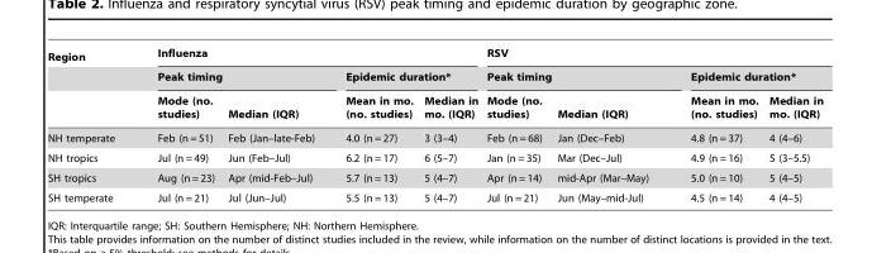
<table><thead><tr><td rowspan="3">Region</td><td colspan="4">Influenza</td><td colspan="4">RSV</td></tr><tr><td colspan="2">Peak timing</td><td colspan="2">Epidemic duration*</td><td colspan="2">Peak timing</td><td colspan="2">Epidemic duration*</td></tr><tr><td>Mode (no. studies)</td><td>Median (IQR)</td><td>Mean in mo. (no. studies)</td><td>Median in mo. (IQR)</td><td>Mode (no. studies)</td><td>Median (IQR)</td><td>Mean in mo. (no. studies)</td><td>Median in mo. (IQR)</td></tr></thead><tbody><tr><td>NH temperate</td><td>Feb (n = 51)</td><td>Feb (Jan–late-Feb)</td><td>4.0 (n = 27)</td><td>3 (3–4)</td><td>Feb (n = 68)</td><td>Jan (Dec–Feb)</td><td>4.8 (n = 37)</td><td>4 (4–6)</td></tr><tr><td>NH tropics</td><td>Jul (n = 49)</td><td>Jun (Feb–Jul)</td><td>6.2 (n = 17)</td><td>6 (5–7)</td><td>Jan (n = 35)</td><td>Mar (Dec–Jul)</td><td>4.9 (n = 16)</td><td>5 (3–5.5)</td></tr><tr><td>SH tropics</td><td>Aug (n = 23)</td><td>Apr (mid-Feb–Jul)</td><td>5.7 (n = 13)</td><td>5 (4–7)</td><td>Apr (n = 14)</td><td>mid-Apr (Mar–May)</td><td>5.0 (n = 10)</td><td>5 (4–5)</td></tr><tr><td>SH temperate</td><td>Jul (n = 21)</td><td>Jul (Jun–Jul)</td><td>5.5 (n = 13)</td><td>5 (4–7)</td><td>Jul (n = 21)</td><td>Jun (May–mid-Jul)</td><td>4.5 (n = 14)</td><td>4 (4–5)</td></tr></tbody></table>